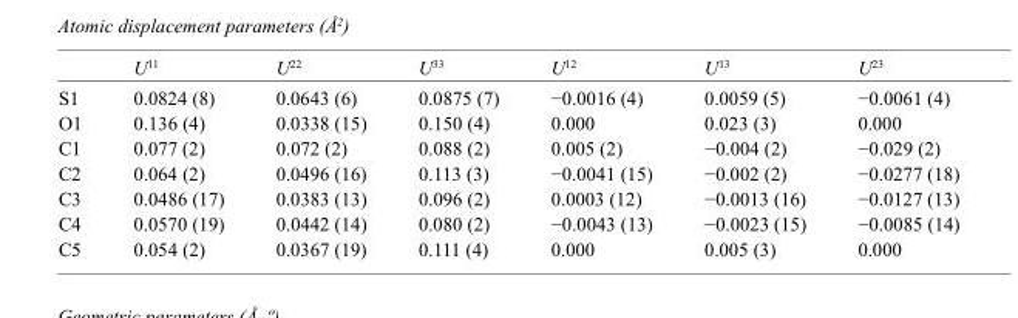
<table><thead><tr><td></td><td>U<sup>11</sup></td><td>U<sup>22</sup></td><td>U<sup>33</sup></td><td>U<sup>12</sup></td><td>U<sup>13</sup></td><td>U<sup>23</sup></td></tr></thead><tbody><tr><td>S1</td><td>0.0824 (8)</td><td>0.0643 (6)</td><td>0.0875 (7)</td><td>−0.0016 (4)</td><td>0.0059 (5)</td><td>−0.0061 (4)</td></tr><tr><td>O1</td><td>0.136 (4)</td><td>0.0338 (15)</td><td>0.150 (4)</td><td>0.000</td><td>0.023 (3)</td><td>0.000</td></tr><tr><td>C1</td><td>0.077 (2)</td><td>0.072 (2)</td><td>0.088 (2)</td><td>0.005 (2)</td><td>−0.004 (2)</td><td>−0.029 (2)</td></tr><tr><td>C2</td><td>0.064 (2)</td><td>0.0496 (16)</td><td>0.113 (3)</td><td>−0.0041 (15)</td><td>−0.002 (2)</td><td>−0.0277 (18)</td></tr><tr><td>C3</td><td>0.0486 (17)</td><td>0.0383 (13)</td><td>0.096 (2)</td><td>0.0003 (12)</td><td>−0.0013 (16)</td><td>−0.0127 (13)</td></tr><tr><td>C4</td><td>0.0570 (19)</td><td>0.0442 (14)</td><td>0.080 (2)</td><td>−0.0043 (13)</td><td>−0.0023 (15)</td><td>−0.0085 (14)</td></tr><tr><td>C5</td><td>0.054 (2)</td><td>0.0367 (19)</td><td>0.111 (4)</td><td>0.000</td><td>0.005 (3)</td><td>0.000</td></tr></tbody></table>